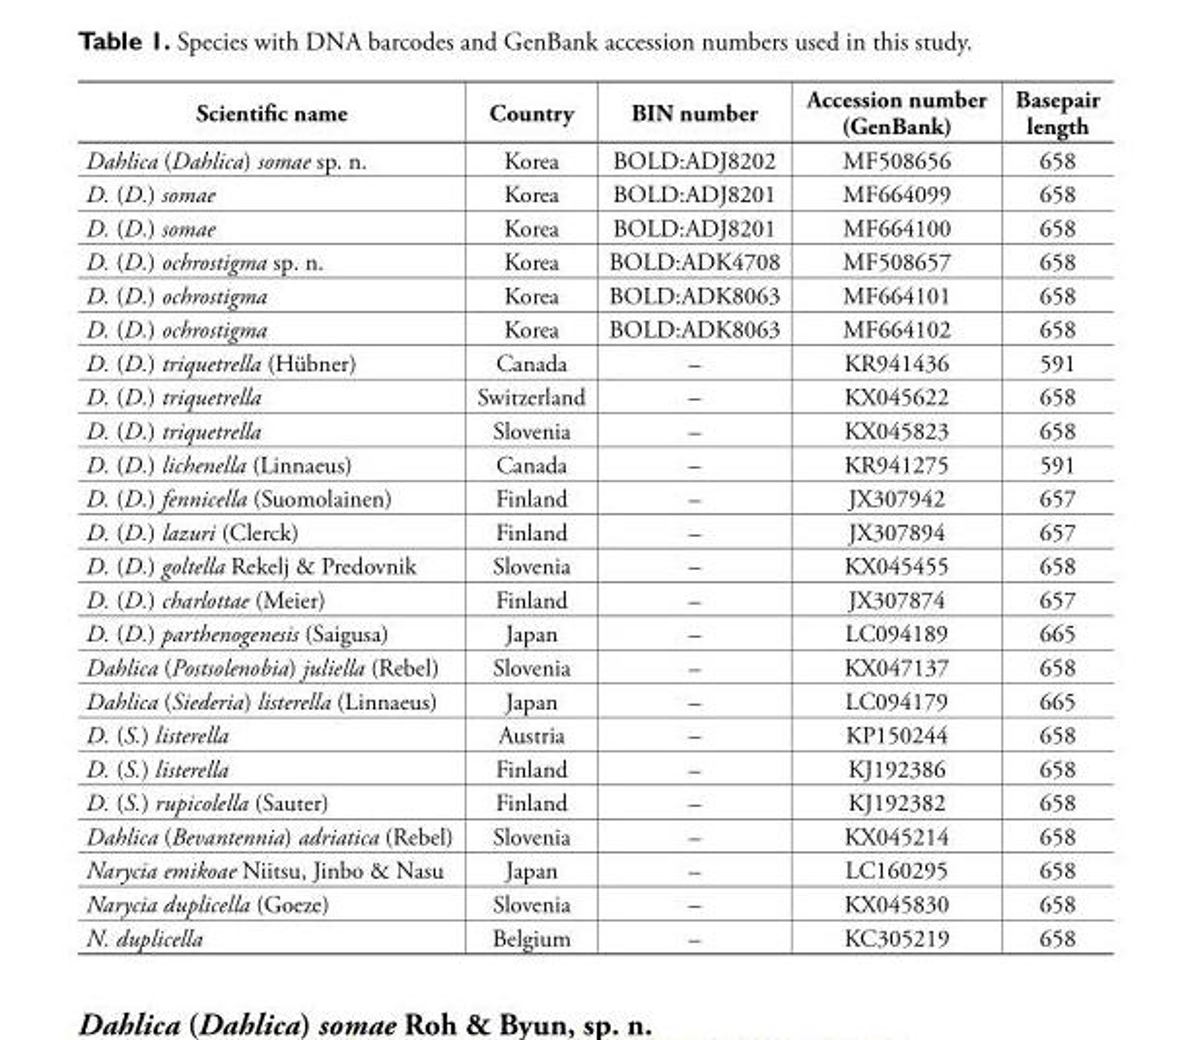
<table><thead><tr><td>Scientific name</td><td>Country</td><td>BIN number</td><td>Accession number (GenBank)</td><td>Basepair length</td></tr></thead><tbody><tr><td>Dahlica (Dahlica) somae sp. n.</td><td>Korea</td><td>BOLD:ADJ8202</td><td>MF508656</td><td>658</td></tr><tr><td>D. (D.) somae</td><td>Korea</td><td>BOLD:ADJ8201</td><td>MF664099</td><td>658</td></tr><tr><td>D. (D.) somae</td><td>Korea</td><td>BOLD:ADJ8201</td><td>MF664100</td><td>658</td></tr><tr><td>D. (D.) ochrostigma sp. n.</td><td>Korea</td><td>BOLD:ADK4708</td><td>MF508657</td><td>658</td></tr><tr><td>D. (D.) ochrostigma</td><td>Korea</td><td>BOLD:ADK8063</td><td>MF664101</td><td>658</td></tr><tr><td>D. (D.) ochrostigma</td><td>Korea</td><td>BOLD:ADK8063</td><td>MF664102</td><td>658</td></tr><tr><td>D. (D.) triquetrella (Hübner)</td><td>Canada</td><td>–</td><td>KR941436</td><td>591</td></tr><tr><td>D. (D.) triquetrella</td><td>Switzerland</td><td>–</td><td>KX045622</td><td>658</td></tr><tr><td>D. (D.) triquetrella</td><td>Slovenia</td><td>–</td><td>KX045823</td><td>658</td></tr><tr><td>D. (D.) lichenella (Linnaeus)</td><td>Canada</td><td>–</td><td>KR941275</td><td>591</td></tr><tr><td>D. (D.) fennicella (Suomolainen)</td><td>Finland</td><td>–</td><td>JX307942</td><td>657</td></tr><tr><td>D. (D.) lazuri (Clerck)</td><td>Finland</td><td>–</td><td>JX307894</td><td>657</td></tr><tr><td>D. (D.) goltella Rekelj &amp; Predovnik</td><td>Slovenia</td><td>–</td><td>KX045455</td><td>658</td></tr><tr><td>D. (D.) charlottae (Meier)</td><td>Finland</td><td>–</td><td>JX307874</td><td>657</td></tr><tr><td>D. (D.) parthenogenesis (Saigusa)</td><td>Japan</td><td>–</td><td>LC094189</td><td>665</td></tr><tr><td>Dahlica (Postsolenobia) juliella (Rebel)</td><td>Slovenia</td><td>–</td><td>KX047137</td><td>658</td></tr><tr><td>Dahlica (Siederia) listerella (Linnaeus)</td><td>Japan</td><td>–</td><td>LC094179</td><td>665</td></tr><tr><td>D. (S.) listerella</td><td>Austria</td><td>–</td><td>KP150244</td><td>658</td></tr><tr><td>D. (S.) listerella</td><td>Finland</td><td>–</td><td>KJ192386</td><td>658</td></tr><tr><td>D. (S.) rupicolella (Sauter)</td><td>Finland</td><td>–</td><td>KJ192382</td><td>658</td></tr><tr><td>Dahlica (Bevantennia) adriatica (Rebel)</td><td>Slovenia</td><td>–</td><td>KX045214</td><td>658</td></tr><tr><td>Narycia emikoae Niitsu, Jinbo &amp; Nasu</td><td>Japan</td><td>–</td><td>LC160295</td><td>658</td></tr><tr><td>Narycia duplicella (Goeze)</td><td>Slovenia</td><td>–</td><td>KX045830</td><td>658</td></tr><tr><td>N. duplicella</td><td>Belgium</td><td>–</td><td>KC305219</td><td>658</td></tr></tbody></table>